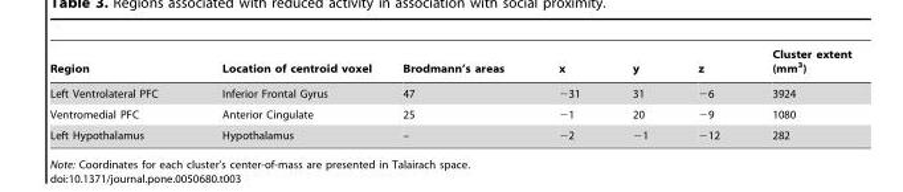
<table><thead><tr><td>Region</td><td>Location of centroid voxel</td><td>Brodmann’s areas</td><td>x</td><td>y</td><td>z</td><td>Cluster extent (mm<sup>3</sup>)</td></tr></thead><tbody><tr><td>Left Ventrolateral PFC</td><td>Inferior Frontal Gyrus</td><td>47</td><td>−31</td><td>31</td><td>−6</td><td>3924</td></tr><tr><td>Ventromedial PFC</td><td>Anterior Cingulate</td><td>25</td><td>−1</td><td>20</td><td>−9</td><td>1080</td></tr><tr><td>Left Hypothalamus</td><td>Hypothalamus</td><td>–</td><td>−2</td><td>−1</td><td>−12</td><td>282</td></tr></tbody></table>